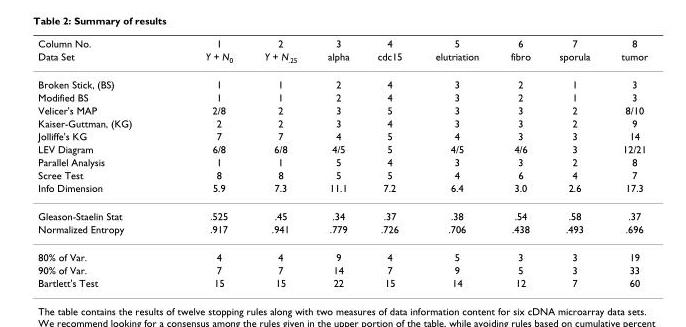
<table><thead><tr><td rowspan="2">Column No. Data Set</td><td rowspan="2">1 Y + N0</td><td rowspan="2">2 Y + N.25</td><td rowspan="2">3 alpha</td><td rowspan="2">4 cdc15</td><td rowspan="2">5 elutriation</td><td rowspan="2">6 fibro</td><td rowspan="2">7 sporula</td><td rowspan="2">8 tumor</td></tr><tr></tr></thead><tbody><tr><td>Broken Stick, (BS)</td><td>1</td><td>1</td><td>2</td><td>4</td><td>3</td><td>2</td><td>1</td><td>3</td></tr><tr><td>Modified BS</td><td>1</td><td>1</td><td>2</td><td>4</td><td>3</td><td>2</td><td>1</td><td>3</td></tr><tr><td>Velicer&#x27;s MAP</td><td>2/8</td><td>2</td><td>3</td><td>5</td><td>3</td><td>3</td><td>2</td><td>8/10</td></tr><tr><td>Kaiser-Guttman, (KG)</td><td>2</td><td>2</td><td>3</td><td>4</td><td>3</td><td>3</td><td>2</td><td>9</td></tr><tr><td>Jolliffe&#x27;s KG</td><td>7</td><td>7</td><td>4</td><td>5</td><td>4</td><td>3</td><td>3</td><td>14</td></tr><tr><td>LEV Diagram</td><td>6/8</td><td>6/8</td><td>4/5</td><td>5</td><td>4/5</td><td>4/6</td><td>3</td><td>12/21</td></tr><tr><td>Parallel Analysis</td><td>1</td><td>1</td><td>5</td><td>4</td><td>3</td><td>3</td><td>2</td><td>8</td></tr><tr><td>Scree Test</td><td>8</td><td>8</td><td>5</td><td>5</td><td>4</td><td>6</td><td>4</td><td>7</td></tr><tr><td>Info Dimension</td><td>5.9</td><td>7.3</td><td>11.1</td><td>7.2</td><td>6.4</td><td>3.0</td><td>2.6</td><td>17.3</td></tr><tr><td>Gleason-Staelin Stat</td><td>.525</td><td>.45</td><td>.34</td><td>.37</td><td>.38</td><td>.54</td><td>.58</td><td>.37</td></tr><tr><td>Normalized Entropy</td><td>.917</td><td>.941</td><td>.779</td><td>.726</td><td>.706</td><td>.438</td><td>.493</td><td>.696</td></tr><tr><td>80% of Var.</td><td>4</td><td>4</td><td>9</td><td>4</td><td>5</td><td>3</td><td>3</td><td>19</td></tr><tr><td>90% of Var.</td><td>7</td><td>7</td><td>14</td><td>7</td><td>9</td><td>5</td><td>3</td><td>33</td></tr><tr><td>Bartlett&#x27;s Test</td><td>15</td><td>15</td><td>22</td><td>15</td><td>14</td><td>12</td><td>7</td><td>60</td></tr></tbody></table>